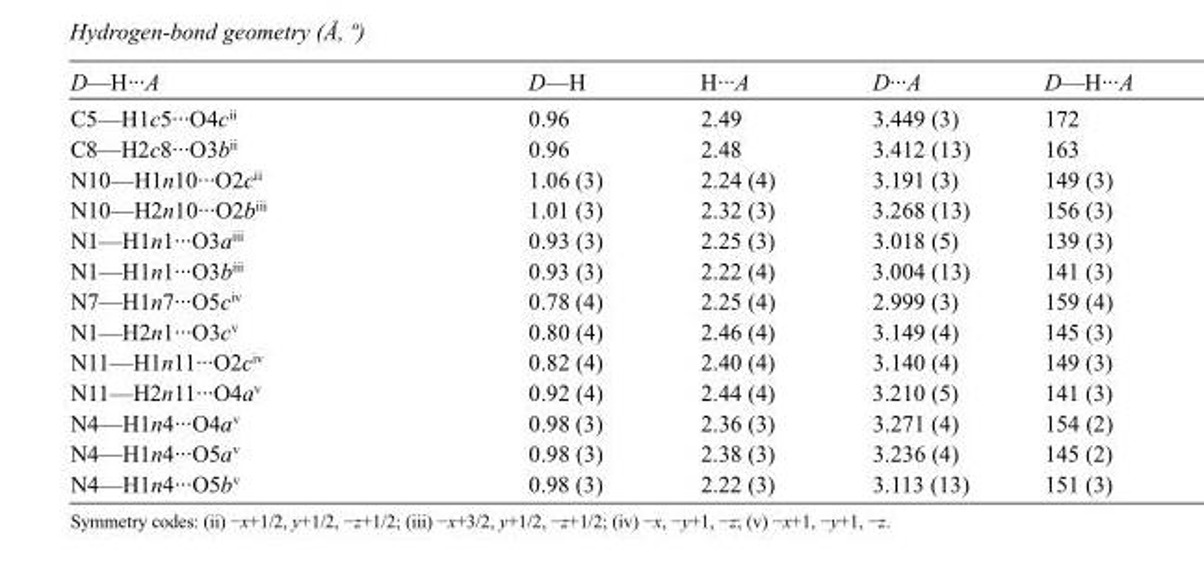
<table><tbody><tr><td>D—H···A</td><td>D—H</td><td>H···A</td><td>D···A</td><td>D—H···A</td></tr><tr><td>C5—H1c5···O4c<sup>ii</sup></td><td>0.96</td><td>2.49</td><td>3.449 (3)</td><td>172</td></tr><tr><td>C8—H2c8···O3b<sup>ii</sup></td><td>0.96</td><td>2.48</td><td>3.412 (13)</td><td>163</td></tr><tr><td>N10—H1n10···O2c<sup>ii</sup></td><td>1.06 (3)</td><td>2.24 (4)</td><td>3.191 (3)</td><td>149 (3)</td></tr><tr><td>N10—H2n10···O2b<sup>iii</sup></td><td>1.01 (3)</td><td>2.32 (3)</td><td>3.268 (13)</td><td>156 (3)</td></tr><tr><td>N1—H1n1···O3a<sup>iii</sup></td><td>0.93 (3)</td><td>2.25 (3)</td><td>3.018 (5)</td><td>139 (3)</td></tr><tr><td>N1—H1n1···O3b<sup>iii</sup></td><td>0.93 (3)</td><td>2.22 (4)</td><td>3.004 (13)</td><td>141 (3)</td></tr><tr><td>N7—H1n7···O5c<sup>iv</sup></td><td>0.78 (4)</td><td>2.25 (4)</td><td>2.999 (3)</td><td>159 (4)</td></tr><tr><td>N1—H2n1···O3c<sup>v</sup></td><td>0.80 (4)</td><td>2.46 (4)</td><td>3.149 (4)</td><td>145 (3)</td></tr><tr><td>N11—H1n11···O2c<sup>iv</sup></td><td>0.82 (4)</td><td>2.40 (4)</td><td>3.140 (4)</td><td>149 (3)</td></tr><tr><td>N11—H2n11···O4a<sup>v</sup></td><td>0.92 (4)</td><td>2.44 (4)</td><td>3.210 (5)</td><td>141 (3)</td></tr><tr><td>N4—H1n4···O4a<sup>v</sup></td><td>0.98 (3)</td><td>2.36 (3)</td><td>3.271 (4)</td><td>154 (2)</td></tr><tr><td>N4—H1n4···O5a<sup>v</sup></td><td>0.98 (3)</td><td>2.38 (3)</td><td>3.236 (4)</td><td>145 (2)</td></tr><tr><td>N4—H1n4···O5b<sup>v</sup></td><td>0.98 (3)</td><td>2.22 (3)</td><td>3.113 (13)</td><td>151 (3)</td></tr></tbody></table>